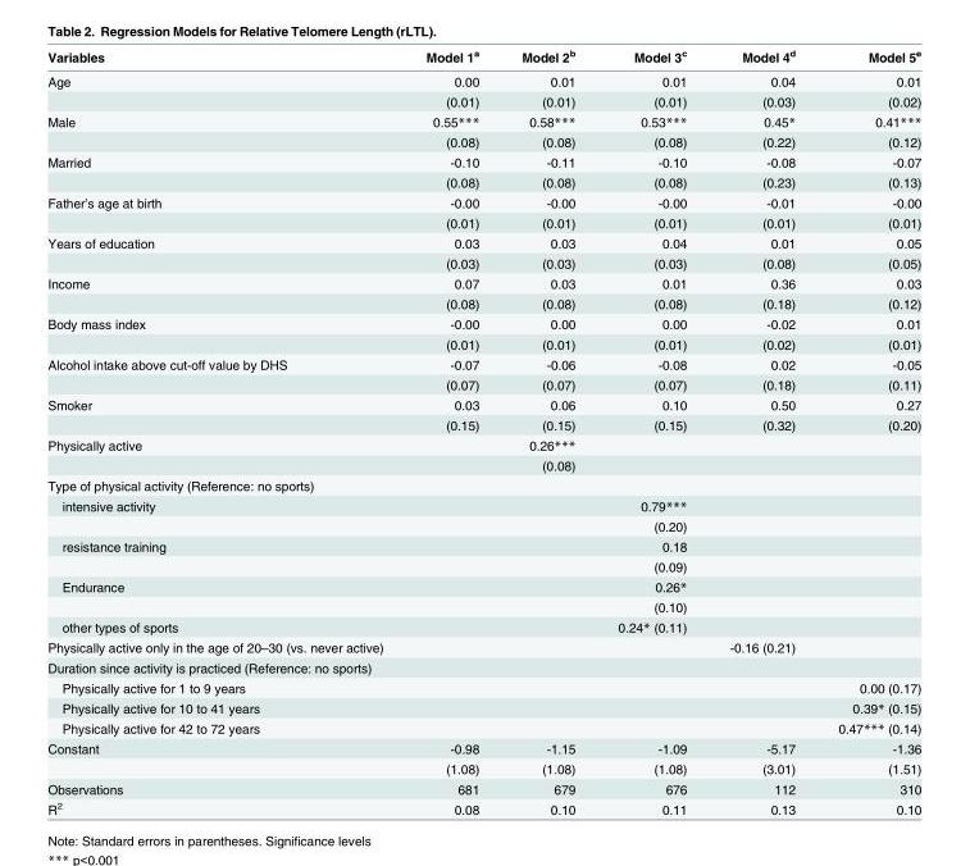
<table><thead><tr><td>Variables</td><td>Model 1<sup>a</sup></td><td>Model 2<sup>b</sup></td><td>Model 3<sup>c</sup></td><td>Model 4<sup>d</sup></td><td>Model 5<sup>e</sup></td></tr></thead><tbody><tr><td rowspan="2">Age</td><td>0.00</td><td>0.01</td><td>0.01</td><td>0.04</td><td>0.01</td></tr><tr><td>(0.01)</td><td>(0.01)</td><td>(0.01)</td><td>(0.03)</td><td>(0.02)</td></tr><tr><td rowspan="2">Male</td><td>0.55***</td><td>0.58***</td><td>0.53***</td><td>0.45*</td><td>0.41***</td></tr><tr><td>(0.08)</td><td>(0.08)</td><td>(0.08)</td><td>(0.22)</td><td>(0.12)</td></tr><tr><td rowspan="2">Married</td><td>-0.10</td><td>-0.11</td><td>-0.10</td><td>-0.08</td><td>-0.07</td></tr><tr><td>(0.08)</td><td>(0.08)</td><td>(0.08)</td><td>(0.23)</td><td>(0.13)</td></tr><tr><td rowspan="2">Father’s age at birth</td><td>-0.00</td><td>-0.00</td><td>-0.00</td><td>-0.01</td><td>-0.00</td></tr><tr><td>(0.01)</td><td>(0.01)</td><td>(0.01)</td><td>(0.01)</td><td>(0.01)</td></tr><tr><td rowspan="2">Years of education</td><td>0.03</td><td>0.03</td><td>0.04</td><td>0.01</td><td>0.05</td></tr><tr><td>(0.03)</td><td>(0.03)</td><td>(0.03)</td><td>(0.08)</td><td>(0.05)</td></tr><tr><td rowspan="2">Income</td><td>0.07</td><td>0.03</td><td>0.01</td><td>0.36</td><td>0.03</td></tr><tr><td>(0.08)</td><td>(0.08)</td><td>(0.08)</td><td>(0.18)</td><td>(0.12)</td></tr><tr><td rowspan="2">Body mass index</td><td>-0.00</td><td>0.00</td><td>0.00</td><td>-0.02</td><td>0.01</td></tr><tr><td>(0.01)</td><td>(0.01)</td><td>(0.01)</td><td>(0.02)</td><td>(0.01)</td></tr><tr><td rowspan="2">Alcohol intake above cut-off value by DHS</td><td>-0.07</td><td>-0.06</td><td>-0.08</td><td>0.02</td><td>-0.05</td></tr><tr><td>(0.07)</td><td>(0.07)</td><td>(0.07)</td><td>(0.18)</td><td>(0.11)</td></tr><tr><td rowspan="2">Smoker</td><td>0.03</td><td>0.06</td><td>0.10</td><td>0.50</td><td>0.27</td></tr><tr><td>(0.15)</td><td>(0.15)</td><td>(0.15)</td><td>(0.32)</td><td>(0.20)</td></tr><tr><td rowspan="2">Physically active</td><td></td><td>0.26***</td><td></td><td></td><td></td></tr><tr><td></td><td>(0.08)</td><td></td><td></td><td></td></tr><tr><td colspan="6">Type of physical activity (Reference: no sports)</td></tr><tr><td rowspan="2">intensive activity</td><td></td><td></td><td>0.79***</td><td></td><td></td></tr><tr><td></td><td></td><td>(0.20)</td><td></td><td></td></tr><tr><td rowspan="2">resistance training</td><td></td><td></td><td>0.18</td><td></td><td></td></tr><tr><td></td><td></td><td>(0.09)</td><td></td><td></td></tr><tr><td rowspan="2">Endurance</td><td></td><td></td><td>0.26*</td><td></td><td></td></tr><tr><td></td><td></td><td>(0.10)</td><td></td><td></td></tr><tr><td>other types of sports</td><td></td><td></td><td>0.24* (0.11)</td><td></td><td></td></tr><tr><td>Physically active only in the age of 20–30 (vs. never active)</td><td></td><td></td><td></td><td>-0.16 (0.21)</td><td></td></tr><tr><td colspan="6">Duration since activity is practiced (Reference: no sports)</td></tr><tr><td>Physically active for 1 to 9 years</td><td></td><td></td><td></td><td></td><td>0.00 (0.17)</td></tr><tr><td>Physically active for 10 to 41 years</td><td></td><td></td><td></td><td></td><td>0.39* (0.15)</td></tr><tr><td>Physically active for 42 to 72 years</td><td></td><td></td><td></td><td></td><td>0.47*** (0.14)</td></tr><tr><td rowspan="2">Constant</td><td>-0.98</td><td>-1.15</td><td>-1.09</td><td>-5.17</td><td>-1.36</td></tr><tr><td>(1.08)</td><td>(1.08)</td><td>(1.08)</td><td>(3.01)</td><td>(1.51)</td></tr><tr><td>Observations</td><td>681</td><td>679</td><td>676</td><td>112</td><td>310</td></tr><tr><td>R<sup>2</sup></td><td>0.08</td><td>0.10</td><td>0.11</td><td>0.13</td><td>0.10</td></tr></tbody></table>